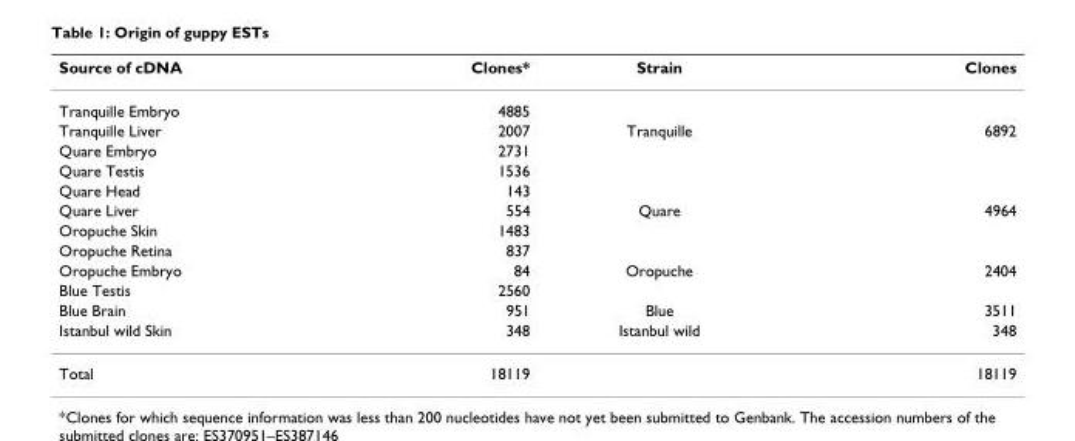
<table><thead><tr><td>Source of cDNA</td><td>Clones*</td><td>Strain</td><td>Clones</td></tr></thead><tbody><tr><td>Tranquille Embryo</td><td>4885</td><td></td><td></td></tr><tr><td>Tranquille Liver</td><td>2007</td><td>Tranquille</td><td>6892</td></tr><tr><td>Quare Embryo</td><td>2731</td><td></td><td></td></tr><tr><td>Quare Testis</td><td>1536</td><td></td><td></td></tr><tr><td>Quare Head</td><td>143</td><td></td><td></td></tr><tr><td>Quare Liver</td><td>554</td><td>Quare</td><td>4964</td></tr><tr><td>Oropuche Skin</td><td>1483</td><td></td><td></td></tr><tr><td>Oropuche Retina</td><td>837</td><td></td><td></td></tr><tr><td>Oropuche Embryo</td><td>84</td><td>Oropuche</td><td>2404</td></tr><tr><td>Blue Testis</td><td>2560</td><td></td><td></td></tr><tr><td>Blue Brain</td><td>951</td><td>Blue</td><td>3511</td></tr><tr><td>Istanbul wild Skin</td><td>348</td><td>Istanbul wild</td><td>348</td></tr><tr><td>Total</td><td>18119</td><td></td><td>18119</td></tr></tbody></table>